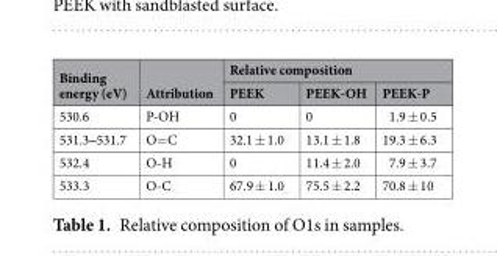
<table><thead><tr><td rowspan="2">Binding energy (eV)</td><td rowspan="2">Attribution</td><td colspan="3">Relative composition</td></tr><tr><td>PEEK</td><td>PEEK-OH</td><td>PEEK-P</td></tr></thead><tbody><tr><td>530.6</td><td>P-OH</td><td>0</td><td>0</td><td>1.9 ± 0.5</td></tr><tr><td>531.3‒531.7</td><td>O=C</td><td>32.1 ± 1.0</td><td>13.1 ± 1.8</td><td>19.3 ± 6.3</td></tr><tr><td>532.4</td><td>O-H</td><td>0</td><td>11.4 ± 2.0</td><td>7.9 ± 3.7</td></tr><tr><td>533.3</td><td>O-C</td><td>67.9 ± 1.0</td><td>75.5 ± 2.2</td><td>70.8 ± 10</td></tr></tbody></table>